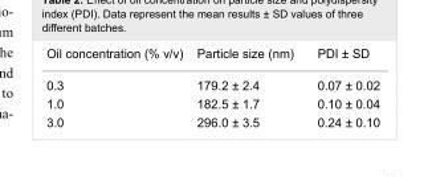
<table><tbody><tr><td>Oil concentration (% v/v)</td><td>Particle size (nm)</td><td>PDI ± SD</td></tr><tr><td>0.3</td><td>179.2 ± 2.4</td><td>0.07 ± 0.02</td></tr><tr><td>1.0</td><td>182.5 ± 1.7</td><td>0.10 ± 0.04</td></tr><tr><td>3.0</td><td>296.0 ± 3.5</td><td>0.24 ± 0.10</td></tr></tbody></table>